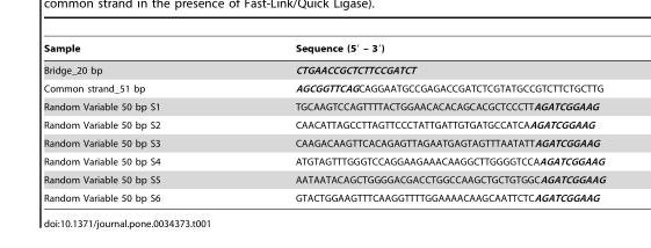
<table><thead><tr><td>Sample</td><td>Sequence (5′ – 3′)</td></tr></thead><tbody><tr><td>Bridge_20 bp</td><td>CTGAACCGCTCTTCCGATCT</td></tr><tr><td>Common strand_51 bp</td><td>AGCGGTTCAGCAGGAATGCCGAGACCGATCTCGTATGCCGTCTTCTGCTTG</td></tr><tr><td>Random Variable 50 bp S1</td><td>TGCAAGTCCAGTTTTACTGGAACACACAGCACGCTCCCTTAGATCGGAAG</td></tr><tr><td>Random Variable 50 bp S2</td><td>CAACATTAGCCTTAGTTCCCTATTGATTGTGATGCCATCAAGATCGGAAG</td></tr><tr><td>Random Variable 50 bp S3</td><td>CAAGACAAGTTCACAGAGTTAGAATGAGTAGTTTAATATTAGATCGGAAG</td></tr><tr><td>Random Variable 50 bp S4</td><td>ATGTAGTTTGGGTCCAGGAAGAAACAAGGCTTGGGGTCCAAGATCGGAAG</td></tr><tr><td>Random Variable 50 bp S5</td><td>AATAATACAGCTGGGGACGACCTGGCCAAGCTGCTGTGGCAGATCGGAAG</td></tr><tr><td>Random Variable 50 bp S6</td><td>GTACTGGAAGTTTCAAGGTTTTGGAAAACAAGCAATTCTCAGATCGGAAG</td></tr></tbody></table>